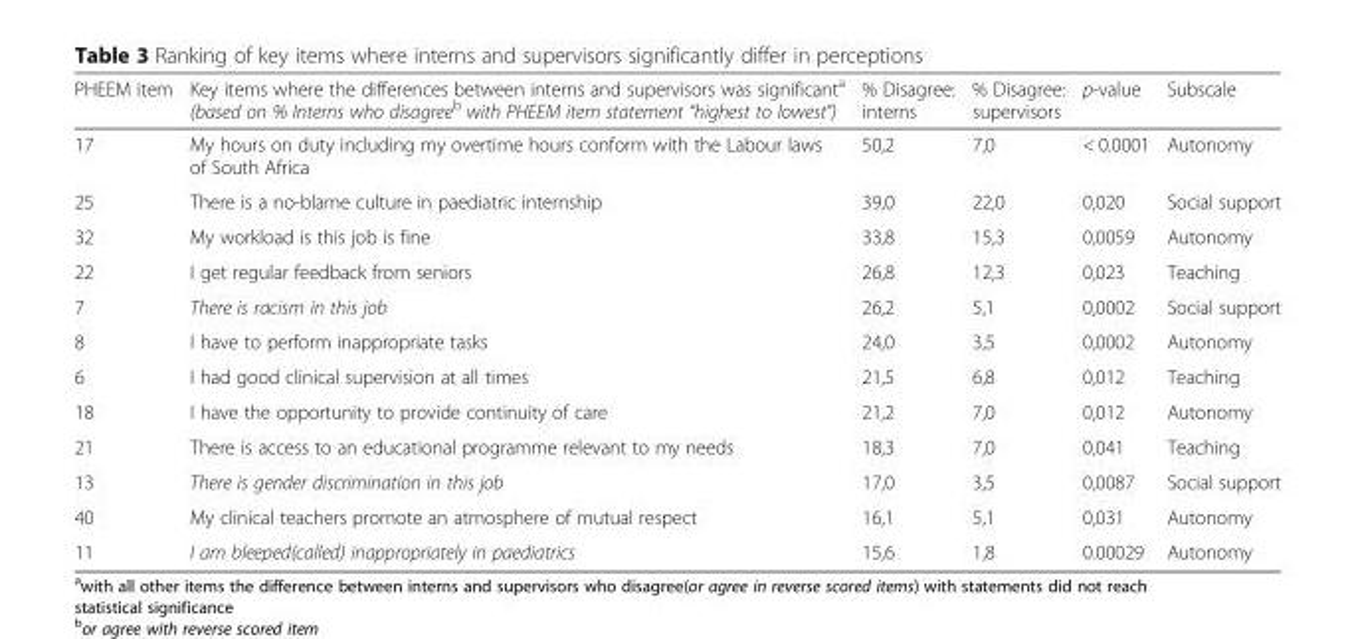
<table><thead><tr><td>PHEEM item</td><td>Key items where the differences between interns and supervisors was significant<sup>a</sup> (based on % Interns who disagree<sup>b</sup> with PHEEM item statement “highest to lowest”)</td><td>% Disagree: interns</td><td>% Disagree: supervisors</td><td>p-value</td><td>Subscale</td></tr></thead><tbody><tr><td>17</td><td>My hours on duty including my overtime hours conform with the Labour laws of South Africa</td><td>50,2</td><td>7,0</td><td>&lt; 0.0001</td><td>Autonomy</td></tr><tr><td>25</td><td>There is a no-blame culture in paediatric internship</td><td>39,0</td><td>22,0</td><td>0,020</td><td>Social support</td></tr><tr><td>32</td><td>My workload is this job is fine</td><td>33,8</td><td>15,3</td><td>0,0059</td><td>Autonomy</td></tr><tr><td>22</td><td>I get regular feedback from seniors</td><td>26,8</td><td>12,3</td><td>0,023</td><td>Teaching</td></tr><tr><td>7</td><td>There is racism in this job</td><td>26,2</td><td>5,1</td><td>0,0002</td><td>Social support</td></tr><tr><td>8</td><td>I have to perform inappropriate tasks</td><td>24,0</td><td>3,5</td><td>0,0002</td><td>Autonomy</td></tr><tr><td>6</td><td>I had good clinical supervision at all times</td><td>21,5</td><td>6,8</td><td>0,012</td><td>Teaching</td></tr><tr><td>18</td><td>I have the opportunity to provide continuity of care</td><td>21,2</td><td>7,0</td><td>0,012</td><td>Autonomy</td></tr><tr><td>21</td><td>There is access to an educational programme relevant to my needs</td><td>18,3</td><td>7,0</td><td>0,041</td><td>Teaching</td></tr><tr><td>13</td><td>There is gender discrimination in this job</td><td>17,0</td><td>3,5</td><td>0,0087</td><td>Social support</td></tr><tr><td>40</td><td>My clinical teachers promote an atmosphere of mutual respect</td><td>16,1</td><td>5,1</td><td>0,031</td><td>Autonomy</td></tr><tr><td>11</td><td>I am bleeped(called) inappropriately in paediatrics</td><td>15,6</td><td>1,8</td><td>0.00029</td><td>Autonomy</td></tr></tbody></table>